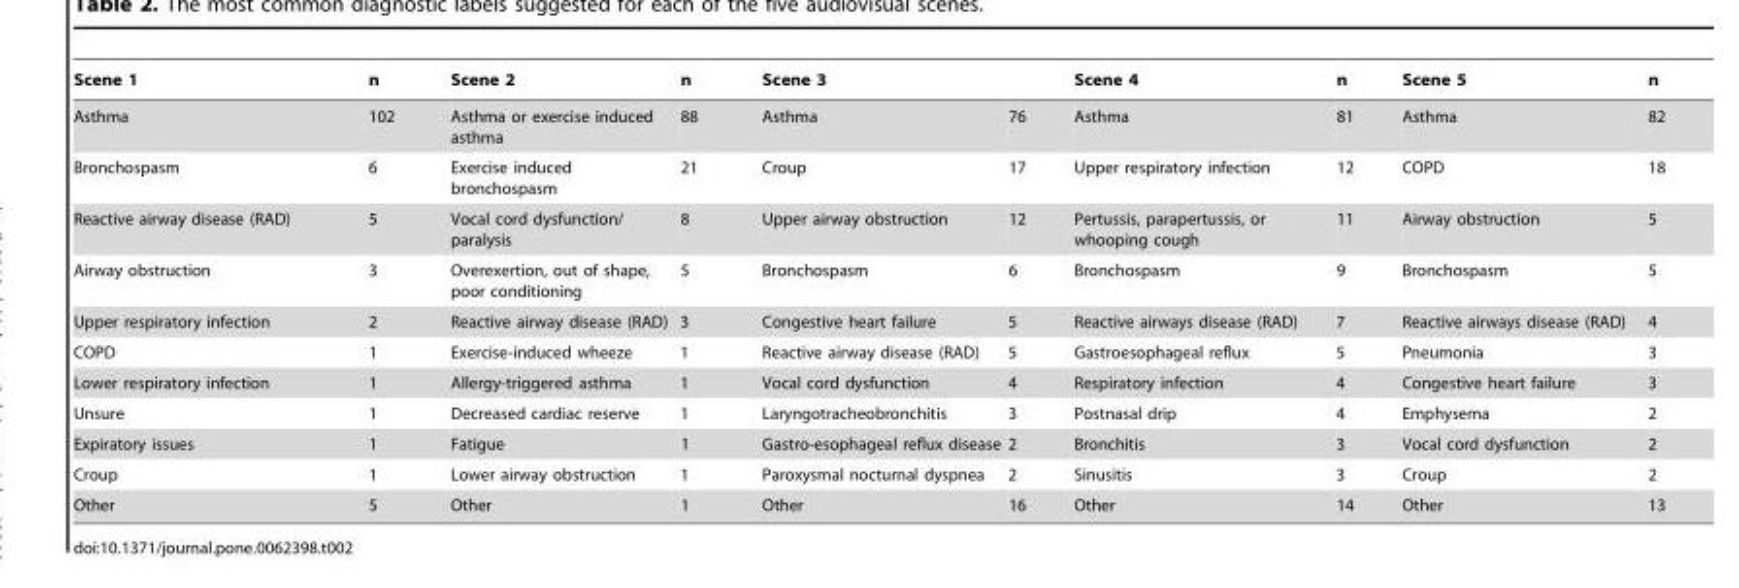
<table><thead><tr><td>Scene 1</td><td>n</td><td>Scene 2</td><td>n</td><td>Scene 3</td><td></td><td>Scene 4</td><td>n</td><td>Scene 5</td><td>n</td></tr></thead><tbody><tr><td>Asthma</td><td>102</td><td>Asthma or exercise induced asthma</td><td>88</td><td>Asthma</td><td>76</td><td>Asthma</td><td>81</td><td>Asthma</td><td>82</td></tr><tr><td>Bronchospasm</td><td>6</td><td>Exercise induced bronchospasm</td><td>21</td><td>Croup</td><td>17</td><td>Upper respiratory infection</td><td>12</td><td>COPD</td><td>18</td></tr><tr><td>Reactive airway disease (RAD)</td><td>5</td><td>Vocal cord dysfunction/ paralysis</td><td>8</td><td>Upper airway obstruction</td><td>12</td><td>Pertussis, parapertussis, or whooping cough</td><td>11</td><td>Airway obstruction</td><td>5</td></tr><tr><td>Airway obstruction</td><td>3</td><td>Overexertion, out of shape, poor conditioning</td><td>5</td><td>Bronchospasm</td><td>6</td><td>Bronchospasm</td><td>9</td><td>Bronchospasm</td><td>5</td></tr><tr><td>Upper respiratory infection</td><td>2</td><td>Reactive airway disease (RAD)</td><td>3</td><td>Congestive heart failure</td><td>5</td><td>Reactive airways disease (RAD)</td><td>7</td><td>Reactive airways disease (RAD)</td><td>4</td></tr><tr><td>COPD</td><td>1</td><td>Exercise-induced wheeze</td><td>1</td><td>Reactive airway disease (RAD)</td><td>5</td><td>Gastroesophageal reflux</td><td>5</td><td>Pneumonia</td><td>3</td></tr><tr><td>Lower respiratory infection</td><td>1</td><td>Allergy-triggered asthma</td><td>1</td><td>Vocal cord dysfunction</td><td>4</td><td>Respiratory infection</td><td>4</td><td>Congestive heart failure</td><td>3</td></tr><tr><td>Unsure</td><td>1</td><td>Decreased cardiac reserve</td><td>1</td><td>Laryngotracheobronchitis</td><td>3</td><td>Postnasal drip</td><td>4</td><td>Emphysema</td><td>2</td></tr><tr><td>Expiratory issues</td><td>1</td><td>Fatigue</td><td>1</td><td>Gastro-esophageal reflux disease</td><td>2</td><td>Bronchitis</td><td>3</td><td>Vocal cord dysfunction</td><td>2</td></tr><tr><td>Croup</td><td>1</td><td>Lower airway obstruction</td><td>1</td><td>Paroxysmal nocturnal dyspnea</td><td>2</td><td>Sinusitis</td><td>3</td><td>Croup</td><td>2</td></tr><tr><td>Other</td><td>5</td><td>Other</td><td>1</td><td>Other</td><td>16</td><td>Other</td><td>14</td><td>Other</td><td>13</td></tr></tbody></table>